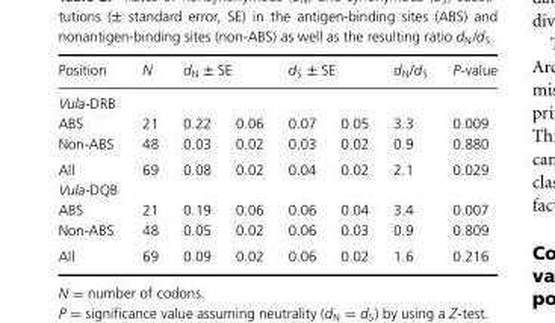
<table><thead><tr><td rowspan="2">Position Vula-DRB</td><td rowspan="2">N</td><td colspan="2">d<sub>N</sub> ± SE</td><td colspan="2">d<sub>S</sub> ± SE</td><td rowspan="2">d<sub>N</sub>/d<sub>S</sub></td><td rowspan="2">P-value</td></tr><tr><td></td><td></td><td></td><td></td></tr></thead><tbody><tr><td>ABS</td><td>21</td><td>0.22</td><td>0.06</td><td>0.07</td><td>0.05</td><td>3.3</td><td>0.009</td></tr><tr><td>Non-ABS</td><td>48</td><td>0.03</td><td>0.02</td><td>0.03</td><td>0.02</td><td>0.9</td><td>0.880</td></tr><tr><td>All</td><td>69</td><td>0.08</td><td>0.02</td><td>0.04</td><td>0.02</td><td>2.1</td><td>0.029</td></tr><tr><td colspan="8">Vula-DQB</td></tr><tr><td>ABS</td><td>21</td><td>0.19</td><td>0.06</td><td>0.06</td><td>0.04</td><td>3.4</td><td>0.007</td></tr><tr><td>Non-ABS</td><td>48</td><td>0.05</td><td>0.02</td><td>0.06</td><td>0.03</td><td>0.9</td><td>0.809</td></tr><tr><td>All</td><td>69</td><td>0.09</td><td>0.02</td><td>0.06</td><td>0.02</td><td>1.6</td><td>0.216</td></tr></tbody></table>